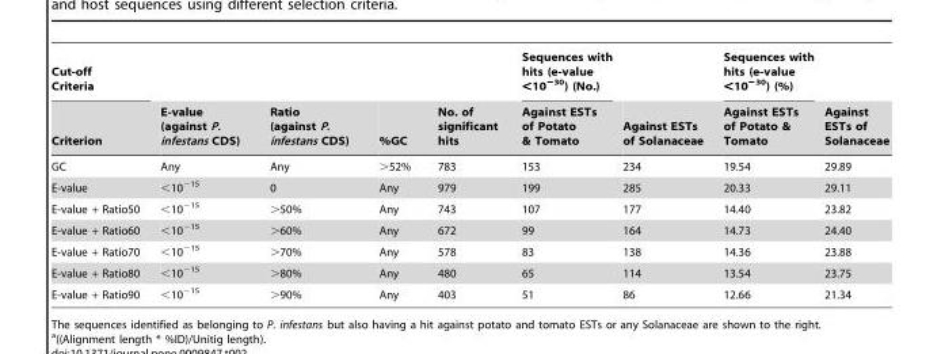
<table><thead><tr><td rowspan="2">Cut-off Criteria Criterion</td><td rowspan="2">E-value (against P. infestans CDS)</td><td rowspan="2">Ratio (against P. infestans CDS)</td><td rowspan="2">%GC</td><td rowspan="2">No. of significant hits</td><td rowspan="2">Sequences with hits (e-value &lt;10<sup>−30</sup>) (No.) Against ESTs of Potato &amp; Tomato</td><td rowspan="2">Against ESTs of Solanaceae</td><td rowspan="2">Sequences with hits (e-value &lt;10<sup>−30</sup>) (%) Against ESTs of Potato &amp; Tomato</td><td rowspan="2">Against ESTs of Solanaceae</td></tr><tr></tr></thead><tbody><tr><td>GC</td><td>Any</td><td>Any</td><td>&gt;52%</td><td>783</td><td>153</td><td>234</td><td>19.54</td><td>29.89</td></tr><tr><td>E-value</td><td>&lt;10<sup>−15</sup></td><td>0</td><td>Any</td><td>979</td><td>199</td><td>285</td><td>20.33</td><td>29.11</td></tr><tr><td>E-value + Ratio50</td><td>&lt;10<sup>−15</sup></td><td>&gt;50%</td><td>Any</td><td>743</td><td>107</td><td>177</td><td>14.40</td><td>23.82</td></tr><tr><td>E-value + Ratio60</td><td>&lt;10<sup>−15</sup></td><td>&gt;60%</td><td>Any</td><td>672</td><td>99</td><td>164</td><td>14.73</td><td>24.40</td></tr><tr><td>E-value + Ratio70</td><td>&lt;10<sup>−15</sup></td><td>&gt;70%</td><td>Any</td><td>578</td><td>83</td><td>138</td><td>14.36</td><td>23.88</td></tr><tr><td>E-value + Ratio80</td><td>&lt;10<sup>−15</sup></td><td>&gt;80%</td><td>Any</td><td>480</td><td>65</td><td>114</td><td>13.54</td><td>23.75</td></tr><tr><td>E-value + Ratio90</td><td>&lt;10<sup>−15</sup></td><td>&gt;90%</td><td>Any</td><td>403</td><td>51</td><td>86</td><td>12.66</td><td>21.34</td></tr></tbody></table>